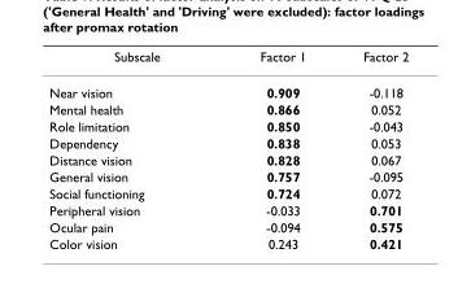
<table><thead><tr><td>Subscale</td><td>Factor 1</td><td>Factor 2</td></tr></thead><tbody><tr><td>Near vision</td><td>0.909</td><td>-0.118</td></tr><tr><td>Mental health</td><td>0.866</td><td>0.052</td></tr><tr><td>Role limitation</td><td>0.850</td><td>-0.043</td></tr><tr><td>Dependency</td><td>0.838</td><td>0.053</td></tr><tr><td>Distance vision</td><td>0.828</td><td>0.067</td></tr><tr><td>General vision</td><td>0.757</td><td>-0.095</td></tr><tr><td>Social functioning</td><td>0.724</td><td>0.072</td></tr><tr><td>Peripheral vision</td><td>-0.033</td><td>0.701</td></tr><tr><td>Ocular pain</td><td>-0.094</td><td>0.575</td></tr><tr><td>Color vision</td><td>0.243</td><td>0.421</td></tr></tbody></table>